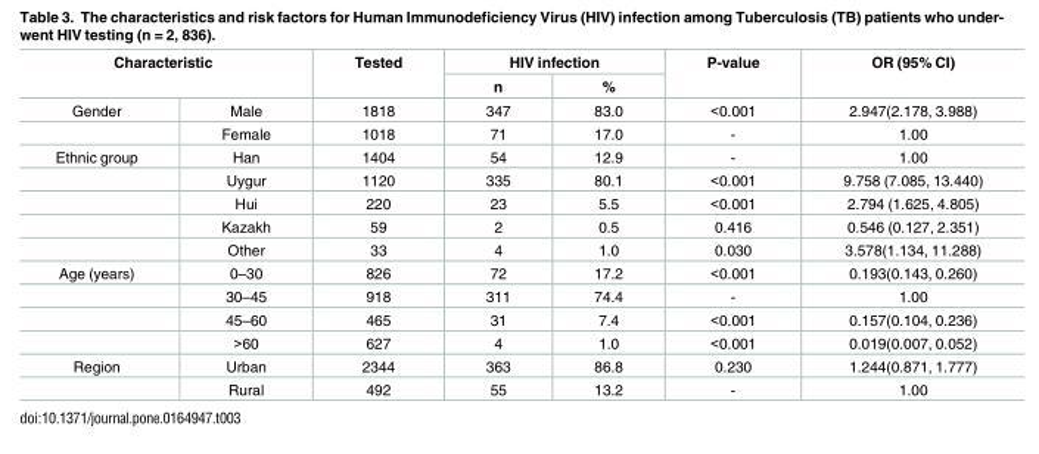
<table><thead><tr><td rowspan="2" colspan="2">Characteristic</td><td rowspan="3">Tested 1818</td><td colspan="2">HIV infection</td><td rowspan="3">P-value &lt;0.001</td><td rowspan="3">OR (95% CI) 2.947(2.178, 3.988)</td></tr><tr><td rowspan="2">n 347</td><td rowspan="2">% 83.0</td></tr><tr><td>Gender</td><td>Male</td></tr></thead><tbody><tr><td></td><td>Female</td><td>1018</td><td>71</td><td>17.0</td><td>-</td><td>1.00</td></tr><tr><td rowspan="5">Ethnic group</td><td>Han</td><td>1404</td><td>54</td><td>12.9</td><td>-</td><td>1.00</td></tr><tr><td>Uygur</td><td>1120</td><td>335</td><td>80.1</td><td>&lt;0.001</td><td>9.758 (7.085, 13.440)</td></tr><tr><td>Hui</td><td>220</td><td>23</td><td>5.5</td><td>&lt;0.001</td><td>2.794 (1.625, 4.805)</td></tr><tr><td>Kazakh</td><td>59</td><td>2</td><td>0.5</td><td>0.416</td><td>0.546 (0.127, 2.351)</td></tr><tr><td>Other</td><td>33</td><td>4</td><td>1.0</td><td>0.030</td><td>3.578(1.134, 11.288)</td></tr><tr><td rowspan="4">Age (years)</td><td>0–30</td><td>826</td><td>72</td><td>17.2</td><td>&lt;0.001</td><td>0.193(0.143, 0.260)</td></tr><tr><td>30–45</td><td>918</td><td>311</td><td>74.4</td><td>-</td><td>1.00</td></tr><tr><td>45–60</td><td>465</td><td>31</td><td>7.4</td><td>&lt;0.001</td><td>0.157(0.104, 0.236)</td></tr><tr><td>&gt;60</td><td>627</td><td>4</td><td>1.0</td><td>&lt;0.001</td><td>0.019(0.007, 0.052)</td></tr><tr><td rowspan="2">Region</td><td>Urban</td><td>2344</td><td>363</td><td>86.8</td><td>0.230</td><td>1.244(0.871, 1.777)</td></tr><tr><td>Rural</td><td>492</td><td>55</td><td>13.2</td><td>-</td><td>1.00</td></tr></tbody></table>